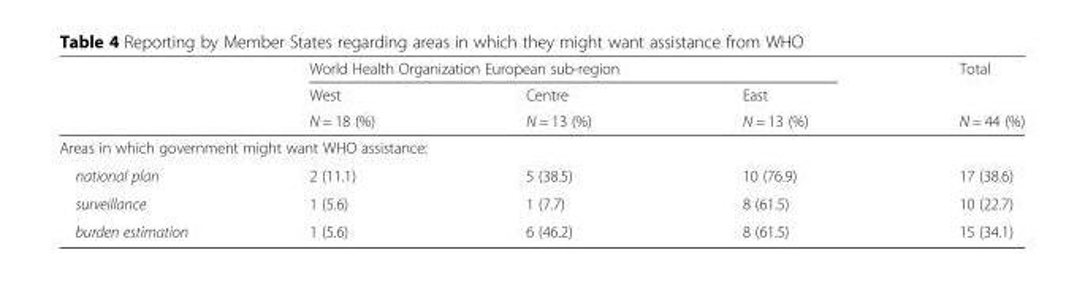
<table><thead><tr><td rowspan="3"></td><td colspan="3">World Health Organization European sub-region</td><td rowspan="3">Total N = 44 (%)</td></tr><tr><td rowspan="2">West N = 18 (%)</td><td rowspan="2">Centre N = 13 (%)</td><td rowspan="2">East N = 13 (%)</td></tr><tr></tr></thead><tbody><tr><td colspan="5">Areas in which government might want WHO assistance:</td></tr><tr><td>national plan</td><td>2 (11.1)</td><td>5 (38.5)</td><td>10 (76.9)</td><td>17 (38.6)</td></tr><tr><td>surveillance</td><td>1 (5.6)</td><td>1 (7.7)</td><td>8 (61.5)</td><td>10 (22.7)</td></tr><tr><td>burden estimation</td><td>1 (5.6)</td><td>6 (46.2)</td><td>8 (61.5)</td><td>15 (34.1)</td></tr></tbody></table>